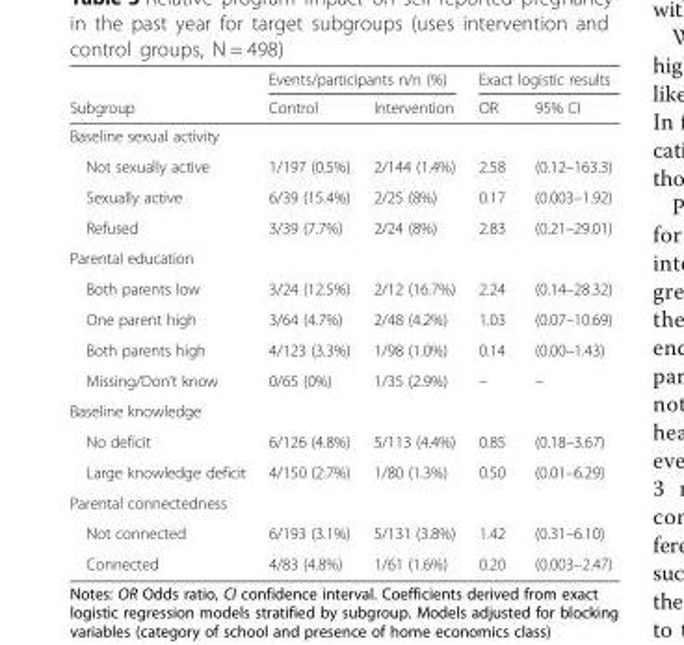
<table><thead><tr><td rowspan="2">Subgroup</td><td colspan="2">Events/participants n/n (%)</td><td colspan="2">Exact logistic results</td></tr><tr><td>Control</td><td>Intervention</td><td>OR</td><td>95% CI</td></tr></thead><tbody><tr><td colspan="5">Baseline sexual activity</td></tr><tr><td>Not sexually active</td><td>1/197 (0.5%)</td><td>2/144 (1.4%)</td><td>2.58</td><td>(0.12–163.3)</td></tr><tr><td>Sexually active</td><td>6/39 (15.4%)</td><td>2/25 (8%)</td><td>0.17</td><td>(0.003–1.92)</td></tr><tr><td>Refused</td><td>3/39 (7.7%)</td><td>2/24 (8%)</td><td>2.83</td><td>(0.21–29.01)</td></tr><tr><td colspan="5">Parental education</td></tr><tr><td>Both parents low</td><td>3/24 (12.5%)</td><td>2/12 (16.7%)</td><td>2.24</td><td>(0.14–28.32)</td></tr><tr><td>One parent high</td><td>3/64 (4.7%)</td><td>2/48 (4.2%)</td><td>1.03</td><td>(0.07–10.69)</td></tr><tr><td>Both parents high</td><td>4/123 (3.3%)</td><td>1/98 (1.0%)</td><td>0.14</td><td>(0.00–1.43)</td></tr><tr><td>Missing/Don’t know</td><td>0/65 (0%)</td><td>1/35 (2.9%)</td><td>–</td><td>–</td></tr><tr><td colspan="5">Baseline knowledge</td></tr><tr><td>No deficit</td><td>6/126 (4.8%)</td><td>5/113 (4.4%)</td><td>0.85</td><td>(0.18–3.67)</td></tr><tr><td>Large knowledge deficit</td><td>4/150 (2.7%)</td><td>1/80 (1.3%)</td><td>0.50</td><td>(0.01–6.29)</td></tr><tr><td colspan="5">Parental connectedness</td></tr><tr><td>Not connected</td><td>6/193 (3.1%)</td><td>5/131 (3.8%)</td><td>1.42</td><td>(0.31–6.10)</td></tr><tr><td>Connected</td><td>4/83 (4.8%)</td><td>1/61 (1.6%)</td><td>0.20</td><td>(0.003–2.47)</td></tr></tbody></table>